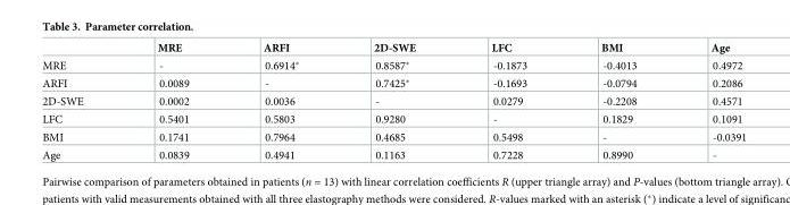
<table><thead><tr><td></td><td>MRE</td><td>ARFI</td><td>2D-SWE</td><td>LFC</td><td>BMI</td><td>Age</td></tr></thead><tbody><tr><td>MRE</td><td>-</td><td>0.6914*</td><td>0.8587*</td><td>-0.1873</td><td>-0.4013</td><td>0.4972</td></tr><tr><td>ARFI</td><td>0.0089</td><td>-</td><td>0.7425*</td><td>-0.1693</td><td>-0.0794</td><td>0.2086</td></tr><tr><td>2D-SWE</td><td>0.0002</td><td>0.0036</td><td>-</td><td>0.0279</td><td>-0.2208</td><td>0.4571</td></tr><tr><td>LFC</td><td>0.5401</td><td>0.5803</td><td>0.9280</td><td>-</td><td>0.1829</td><td>0.1091</td></tr><tr><td>BMI</td><td>0.1741</td><td>0.7964</td><td>0.4685</td><td>0.5498</td><td>-</td><td>-0.0391</td></tr><tr><td>Age</td><td>0.0839</td><td>0.4941</td><td>0.1163</td><td>0.7228</td><td>0.8990</td><td>-</td></tr></tbody></table>